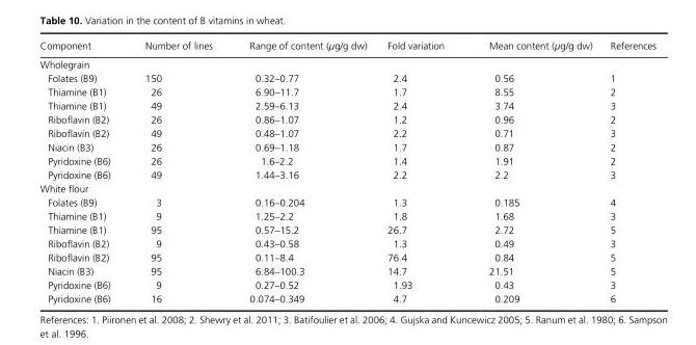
<table><thead><tr><td>Component</td><td>Number of lines</td><td>Range of content (μg/g dw)</td><td>Fold variation</td><td>Mean content (μg/g dw)</td><td>References</td></tr></thead><tbody><tr><td colspan="6">Wholegrain</td></tr><tr><td>Folates (B9)</td><td>150</td><td>0.32–0.77</td><td>2.4</td><td>0.56</td><td>1</td></tr><tr><td>Thiamine (B1)</td><td>26</td><td>6.90–11.7</td><td>1.7</td><td>8.55</td><td>2</td></tr><tr><td>Thiamine (B1)</td><td>49</td><td>2.59–6.13</td><td>2.4</td><td>3.74</td><td>3</td></tr><tr><td>Riboflavin (B2)</td><td>26</td><td>0.86–1.07</td><td>1.2</td><td>0.96</td><td>2</td></tr><tr><td>Riboflavin (B2)</td><td>49</td><td>0.48–1.07</td><td>2.2</td><td>0.71</td><td>3</td></tr><tr><td>Niacin (B3)</td><td>26</td><td>0.69–1.18</td><td>1.7</td><td>0.87</td><td>2</td></tr><tr><td>Pyridoxine (B6)</td><td>26</td><td>1.6–2.2</td><td>1.4</td><td>1.91</td><td>2</td></tr><tr><td>Pyridoxine (B6)</td><td>49</td><td>1.44–3.16</td><td>2.2</td><td>2.2</td><td>3</td></tr><tr><td colspan="6">White flour</td></tr><tr><td>Folates (B9)</td><td>3</td><td>0.16–0.204</td><td>1.3</td><td>0.185</td><td>4</td></tr><tr><td>Thiamine (B1)</td><td>9</td><td>1.25–2.2</td><td>1.8</td><td>1.68</td><td>3</td></tr><tr><td>Thiamine (B1)</td><td>95</td><td>0.57–15.2</td><td>26.7</td><td>2.72</td><td>5</td></tr><tr><td>Riboflavin (B2)</td><td>9</td><td>0.43–0.58</td><td>1.3</td><td>0.49</td><td>3</td></tr><tr><td>Riboflavin (B2)</td><td>95</td><td>0.11–8.4</td><td>76.4</td><td>0.84</td><td>5</td></tr><tr><td>Niacin (B3)</td><td>95</td><td>6.84–100.3</td><td>14.7</td><td>21.51</td><td>5</td></tr><tr><td>Pyridoxine (B6)</td><td>9</td><td>0.27–0.52</td><td>1.93</td><td>0.43</td><td>3</td></tr><tr><td>Pyridoxine (B6)</td><td>16</td><td>0.074–0.349</td><td>4.7</td><td>0.209</td><td>6</td></tr></tbody></table>